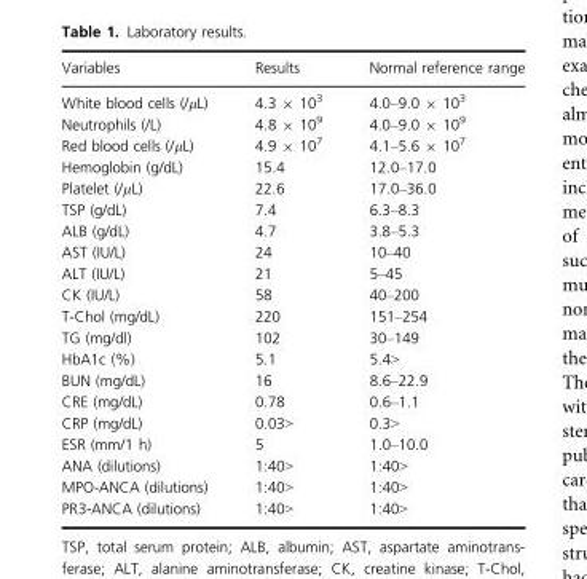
<table><thead><tr><td>Variables</td><td>Results</td><td>Normal reference range</td></tr></thead><tbody><tr><td>White blood cells (/μL)</td><td>4.3 × 10<sup>3</sup></td><td>4.0–9.0 × 10<sup>3</sup></td></tr><tr><td>Neutrophils (/L)</td><td>4.8 × 10<sup>9</sup></td><td>4.0–9.0 × 10<sup>9</sup></td></tr><tr><td>Red blood cells (/μL)</td><td>4.9 × 10<sup>7</sup></td><td>4.1–5.6 × 10<sup>7</sup></td></tr><tr><td>Hemoglobin (g/dL)</td><td>15.4</td><td>12.0–17.0</td></tr><tr><td>Platelet (/μL)</td><td>22.6</td><td>17.0–36.0</td></tr><tr><td>TSP (g/dL)</td><td>7.4</td><td>6.3–8.3</td></tr><tr><td>ALB (g/dL)</td><td>4.7</td><td>3.8–5.3</td></tr><tr><td>AST (IU/L)</td><td>24</td><td>10–40</td></tr><tr><td>ALT (IU/L)</td><td>21</td><td>5–45</td></tr><tr><td>CK (IU/L)</td><td>58</td><td>40–200</td></tr><tr><td>T-Chol (mg/dL)</td><td>220</td><td>151–254</td></tr><tr><td>TG (mg/dl)</td><td>102</td><td>30–149</td></tr><tr><td>HbA1c (%)</td><td>5.1</td><td>5.4&gt;</td></tr><tr><td>BUN (mg/dL)</td><td>16</td><td>8.6–22.9</td></tr><tr><td>CRE (mg/dL)</td><td>0.78</td><td>0.6–1.1</td></tr><tr><td>CRP (mg/dL)</td><td>0.03&gt;</td><td>0.3&gt;</td></tr><tr><td>ESR (mm/1 h)</td><td>5</td><td>1.0–10.0</td></tr><tr><td>ANA (dilutions)</td><td>1:40&gt;</td><td>1:40&gt;</td></tr><tr><td>MPO-ANCA (dilutions)</td><td>1:40&gt;</td><td>1:40&gt;</td></tr><tr><td>PR3-ANCA (dilutions)</td><td>1:40&gt;</td><td>1:40&gt;</td></tr></tbody></table>